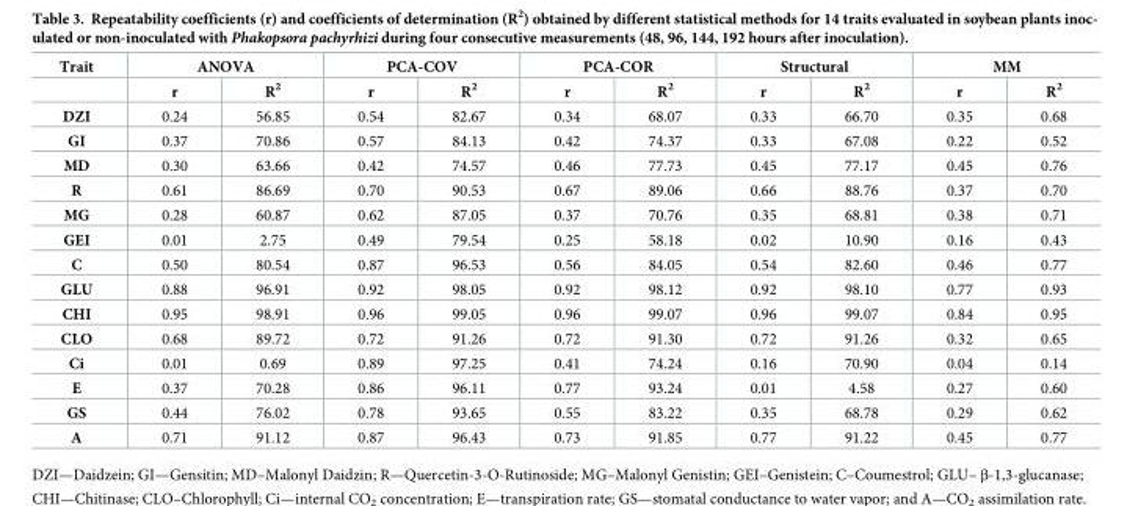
<table><thead><tr><td rowspan="2">Trait</td><td colspan="2">ANOVA</td><td colspan="2">PCA-COV</td><td colspan="2">PCA-COR</td><td colspan="2">Structural</td><td colspan="2">MM</td></tr><tr><td>r</td><td>R<sup>2</sup></td><td>r</td><td>R<sup>2</sup></td><td>r</td><td>R<sup>2</sup></td><td>r</td><td>R<sup>2</sup></td><td>r</td><td>R<sup>2</sup></td></tr></thead><tbody><tr><td>DZI</td><td>0.24</td><td>56.85</td><td>0.54</td><td>82.67</td><td>0.34</td><td>68.07</td><td>0.33</td><td>66.70</td><td>0.35</td><td>0.68</td></tr><tr><td>GI</td><td>0.37</td><td>70.86</td><td>0.57</td><td>84.13</td><td>0.42</td><td>74.37</td><td>0.33</td><td>67.08</td><td>0.22</td><td>0.52</td></tr><tr><td>MD</td><td>0.30</td><td>63.66</td><td>0.42</td><td>74.57</td><td>0.46</td><td>77.73</td><td>0.45</td><td>77.17</td><td>0.45</td><td>0.76</td></tr><tr><td>R</td><td>0.61</td><td>86.69</td><td>0.70</td><td>90.53</td><td>0.67</td><td>89.06</td><td>0.66</td><td>88.76</td><td>0.37</td><td>0.70</td></tr><tr><td>MG</td><td>0.28</td><td>60.87</td><td>0.62</td><td>87.05</td><td>0.37</td><td>70.76</td><td>0.35</td><td>68.81</td><td>0.38</td><td>0.71</td></tr><tr><td>GEI</td><td>0.01</td><td>2.75</td><td>0.49</td><td>79.54</td><td>0.25</td><td>58.18</td><td>0.02</td><td>10.90</td><td>0.16</td><td>0.43</td></tr><tr><td>C</td><td>0.50</td><td>80.54</td><td>0.87</td><td>96.53</td><td>0.56</td><td>84.05</td><td>0.54</td><td>82.60</td><td>0.46</td><td>0.77</td></tr><tr><td>GLU</td><td>0.88</td><td>96.91</td><td>0.92</td><td>98.05</td><td>0.92</td><td>98.12</td><td>0.92</td><td>98.10</td><td>0.77</td><td>0.93</td></tr><tr><td>CHI</td><td>0.95</td><td>98.91</td><td>0.96</td><td>99.05</td><td>0.96</td><td>99.07</td><td>0.96</td><td>99.07</td><td>0.84</td><td>0.95</td></tr><tr><td>CLO</td><td>0.68</td><td>89.72</td><td>0.72</td><td>91.26</td><td>0.72</td><td>91.30</td><td>0.72</td><td>91.26</td><td>0.32</td><td>0.65</td></tr><tr><td>Ci</td><td>0.01</td><td>0.69</td><td>0.89</td><td>97.25</td><td>0.41</td><td>74.24</td><td>0.16</td><td>70.90</td><td>0.04</td><td>0.14</td></tr><tr><td>E</td><td>0.37</td><td>70.28</td><td>0.86</td><td>96.11</td><td>0.77</td><td>93.24</td><td>0.01</td><td>4.58</td><td>0.27</td><td>0.60</td></tr><tr><td>GS</td><td>0.44</td><td>76.02</td><td>0.78</td><td>93.65</td><td>0.55</td><td>83.22</td><td>0.35</td><td>68.78</td><td>0.29</td><td>0.62</td></tr><tr><td>A</td><td>0.71</td><td>91.12</td><td>0.87</td><td>96.43</td><td>0.73</td><td>91.85</td><td>0.77</td><td>91.22</td><td>0.45</td><td>0.77</td></tr></tbody></table>